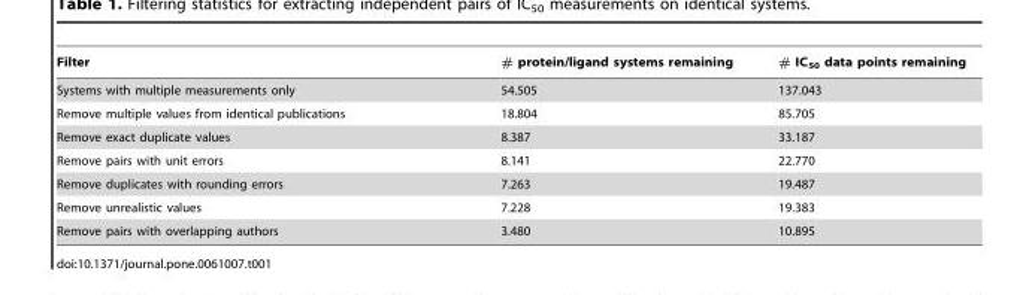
<table><thead><tr><td>Filter</td><td># protein/ligand systems remaining</td><td># IC<sub>50</sub> data points remaining</td></tr></thead><tbody><tr><td>Systems with multiple measurements only</td><td>54.505</td><td>137.043</td></tr><tr><td>Remove multiple values from identical publications</td><td>18.804</td><td>85.705</td></tr><tr><td>Remove exact duplicate values</td><td>8.387</td><td>33.187</td></tr><tr><td>Remove pairs with unit errors</td><td>8.141</td><td>22.770</td></tr><tr><td>Remove duplicates with rounding errors</td><td>7.263</td><td>19.487</td></tr><tr><td>Remove unrealistic values</td><td>7.228</td><td>19.383</td></tr><tr><td>Remove pairs with overlapping authors</td><td>3.480</td><td>10.895</td></tr></tbody></table>